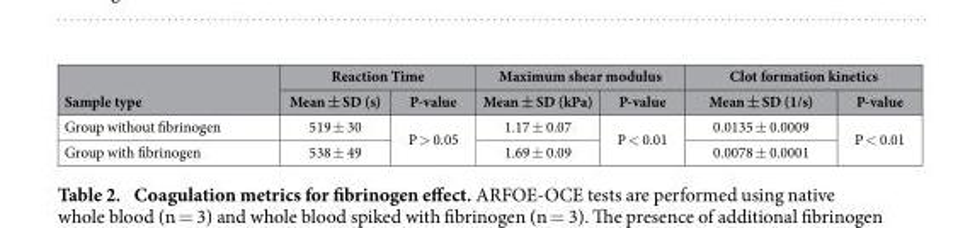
<table><thead><tr><td rowspan="2">Sample type</td><td colspan="2">Reaction Time</td><td colspan="2">Maximum shear modulus</td><td colspan="2">Clot formation kinetics</td></tr><tr><td>Mean ± SD (s)</td><td>P-value</td><td>Mean ± SD (kPa)</td><td>P-value</td><td>Mean ± SD (1/s)</td><td>P-value</td></tr></thead><tbody><tr><td>Group without fibrinogen</td><td>519 ± 30</td><td rowspan="2">P &gt; 0.05</td><td>1.17 ± 0.07</td><td rowspan="2">P &lt; 0.01</td><td>0.0135 ± 0.0009</td><td rowspan="2">P &lt; 0.01</td></tr><tr><td>Group with fibrinogen</td><td>538 ± 49</td><td>1.69 ± 0.09</td><td>0.0078 ± 0.0001</td></tr></tbody></table>